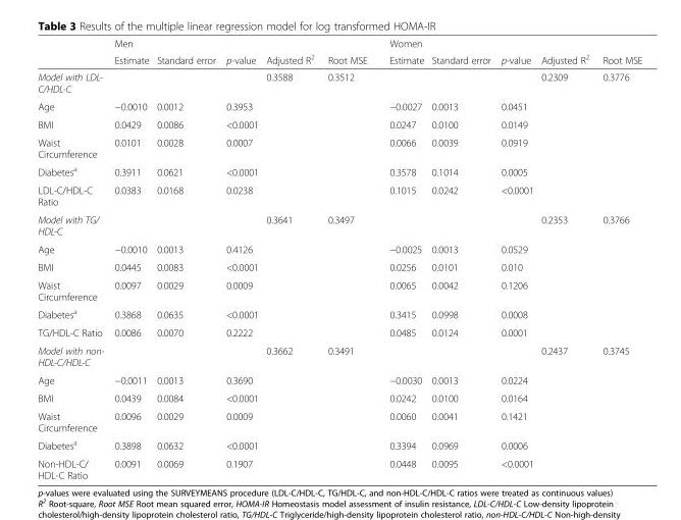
<table><thead><tr><td rowspan="2"></td><td colspan="5">Men</td><td colspan="5">Women</td></tr><tr><td>Estimate</td><td>Standard error</td><td>p-value</td><td>Adjusted R<sup>2</sup></td><td>Root MSE</td><td>Estimate</td><td>Standard error</td><td>p-value</td><td>Adjusted R<sup>2</sup></td><td>Root MSE</td></tr></thead><tbody><tr><td>Model with LDL- C/HDL-C</td><td></td><td></td><td></td><td>0.3588</td><td>0.3512</td><td></td><td></td><td></td><td>0.2309</td><td>0.3776</td></tr><tr><td>Age</td><td>−0.0010</td><td>0.0012</td><td>0.3953</td><td></td><td></td><td>−0.0027</td><td>0.0013</td><td>0.0451</td><td></td><td></td></tr><tr><td>BMI</td><td>0.0429</td><td>0.0086</td><td>&lt;0.0001</td><td></td><td></td><td>0.0247</td><td>0.0100</td><td>0.0149</td><td></td><td></td></tr><tr><td>Waist Circumference</td><td>0.0101</td><td>0.0028</td><td>0.0007</td><td></td><td></td><td>0.0066</td><td>0.0039</td><td>0.0919</td><td></td><td></td></tr><tr><td>Diabetes<sup>a</sup></td><td>0.3911</td><td>0.0621</td><td>&lt;0.0001</td><td></td><td></td><td>0.3578</td><td>0.1014</td><td>0.0005</td><td></td><td></td></tr><tr><td>LDL-C/HDL-C Ratio</td><td>0.0383</td><td>0.0168</td><td>0.0238</td><td></td><td></td><td>0.1015</td><td>0.0242</td><td>&lt;0.0001</td><td></td><td></td></tr><tr><td>Model with TG/ HDL-C</td><td></td><td></td><td></td><td>0.3641</td><td>0.3497</td><td></td><td></td><td></td><td>0.2353</td><td>0.3766</td></tr><tr><td>Age</td><td>−0.0010</td><td>0.0013</td><td>0.4126</td><td></td><td></td><td>−0.0025</td><td>0.0013</td><td>0.0529</td><td></td><td></td></tr><tr><td>BMI</td><td>0.0445</td><td>0.0083</td><td>&lt;0.0001</td><td></td><td></td><td>0.0256</td><td>0.0101</td><td>0.010</td><td></td><td></td></tr><tr><td>Waist Circumference</td><td>0.0097</td><td>0.0029</td><td>0.0009</td><td></td><td></td><td>0.0065</td><td>0.0042</td><td>0.1206</td><td></td><td></td></tr><tr><td>Diabetes<sup>a</sup></td><td>0.3868</td><td>0.0635</td><td>&lt;0.0001</td><td></td><td></td><td>0.3415</td><td>0.0998</td><td>0.0008</td><td></td><td></td></tr><tr><td>TG/HDL-C Ratio</td><td>0.0086</td><td>0.0070</td><td>0.2222</td><td></td><td></td><td>0.0485</td><td>0.0124</td><td>0.0001</td><td></td><td></td></tr><tr><td>Model with non- HDL-C/HDL-C</td><td></td><td></td><td></td><td>0.3662</td><td>0.3491</td><td></td><td></td><td></td><td>0.2437</td><td>0.3745</td></tr><tr><td>Age</td><td>−0.0011</td><td>0.0013</td><td>0.3690</td><td></td><td></td><td>−0.0030</td><td>0.0013</td><td>0.0224</td><td></td><td></td></tr><tr><td>BMI</td><td>0.0439</td><td>0.0084</td><td>&lt;0.0001</td><td></td><td></td><td>0.0242</td><td>0.0100</td><td>0.0164</td><td></td><td></td></tr><tr><td>Waist Circumference</td><td>0.0096</td><td>0.0029</td><td>0.0009</td><td></td><td></td><td>0.0060</td><td>0.0041</td><td>0.1421</td><td></td><td></td></tr><tr><td>Diabetes<sup>a</sup></td><td>0.3898</td><td>0.0632</td><td>&lt;0.0001</td><td></td><td></td><td>0.3394</td><td>0.0969</td><td>0.0006</td><td></td><td></td></tr><tr><td>Non-HDL-C/ HDL-C Ratio</td><td>0.0091</td><td>0.0069</td><td>0.1907</td><td></td><td></td><td>0.0448</td><td>0.0095</td><td>&lt;0.0001</td><td></td><td></td></tr></tbody></table>